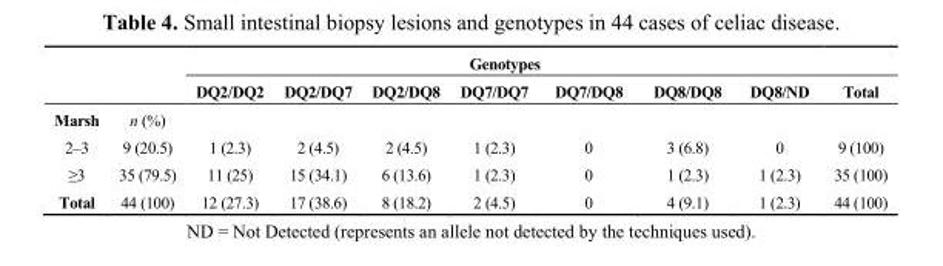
<table><thead><tr><td rowspan="2"></td><td rowspan="2"></td><td colspan="7">Genotypes</td><td rowspan="2">Total</td></tr><tr><td>DQ2/DQ2</td><td>DQ2/DQ7</td><td>DQ2/DQ8</td><td>DQ7/DQ7</td><td>DQ7/DQ8</td><td>DQ8/DQ8</td><td>DQ8/ND</td></tr></thead><tbody><tr><td>Marsh</td><td>n (%)</td><td></td><td></td><td></td><td></td><td></td><td></td><td></td><td></td></tr><tr><td>2–3</td><td>9 (20.5)</td><td>1 (2.3)</td><td>2 (4.5)</td><td>2 (4.5)</td><td>1 (2.3)</td><td>0</td><td>3 (6.8)</td><td>0</td><td>9 (100)</td></tr><tr><td>≥3</td><td>35 (79.5)</td><td>11 (25)</td><td>15 (34.1)</td><td>6 (13.6)</td><td>1 (2.3)</td><td>0</td><td>1 (2.3)</td><td>1 (2.3)</td><td>35 (100)</td></tr><tr><td>Total</td><td>44 (100)</td><td>12 (27.3)</td><td>17 (38.6)</td><td>8 (18.2)</td><td>2 (4.5)</td><td>0</td><td>4 (9.1)</td><td>1 (2.3)</td><td>44 (100)</td></tr></tbody></table>